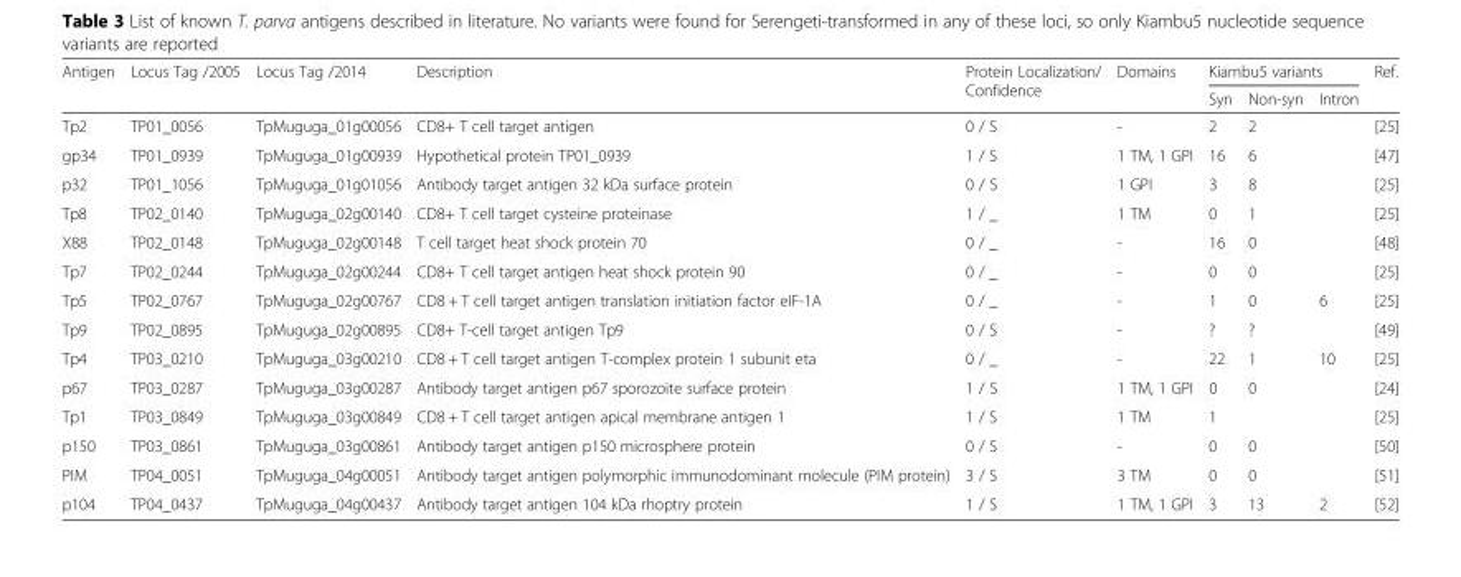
<table><thead><tr><td rowspan="2">Antigen</td><td rowspan="2">Locus Tag /2005</td><td rowspan="2">Locus Tag /2014</td><td rowspan="2">Description</td><td rowspan="2">Protein Localization/ Confidence</td><td rowspan="2">Domains</td><td colspan="3">Kiambu5 variants</td><td rowspan="2">Ref.</td></tr><tr><td>Syn</td><td>Non-syn</td><td>Intron</td></tr></thead><tbody><tr><td>Tp2</td><td>TP01_0056</td><td>TpMuguga_01g00056</td><td>CD8+ T cell target antigen</td><td>0 / S</td><td>-</td><td>2</td><td>2</td><td></td><td>[25]</td></tr><tr><td>gp34</td><td>TP01_0939</td><td>TpMuguga_01g00939</td><td>Hypothetical protein TP01_0939</td><td>1 / S</td><td>1 TM, 1 GPI</td><td>16</td><td>6</td><td></td><td>[47]</td></tr><tr><td>p32</td><td>TP01_1056</td><td>TpMuguga_01g01056</td><td>Antibody target antigen 32 kDa surface protein</td><td>0 / S</td><td>1 GPI</td><td>3</td><td>8</td><td></td><td>[25]</td></tr><tr><td>Tp8</td><td>TP02_0140</td><td>TpMuguga_02g00140</td><td>CD8+ T cell target cysteine proteinase</td><td>1 / _</td><td>1 TM</td><td>0</td><td>1</td><td></td><td>[25]</td></tr><tr><td>X88</td><td>TP02_0148</td><td>TpMuguga_02g00148</td><td>T cell target heat shock protein 70</td><td>0 / _</td><td>-</td><td>16</td><td>0</td><td></td><td>[48]</td></tr><tr><td>Tp7</td><td>TP02_0244</td><td>TpMuguga_02g00244</td><td>CD8+ T cell target antigen heat shock protein 90</td><td>0 / _</td><td>-</td><td>0</td><td>0</td><td></td><td>[25]</td></tr><tr><td>Tp5</td><td>TP02_0767</td><td>TpMuguga_02g00767</td><td>CD8 + T cell target antigen translation initiation factor eIF-1A</td><td>0 / _</td><td>-</td><td>1</td><td>0</td><td>6</td><td>[25]</td></tr><tr><td>Tp9</td><td>TP02_0895</td><td>TpMuguga_02g00895</td><td>CD8+ T-cell target antigen Tp9</td><td>0 / S</td><td>-</td><td>?</td><td>?</td><td></td><td>[49]</td></tr><tr><td>Tp4</td><td>TP03_0210</td><td>TpMuguga_03g00210</td><td>CD8 + T cell target antigen T-complex protein 1 subunit eta</td><td>0 / _</td><td>-</td><td>22</td><td>1</td><td>10</td><td>[25]</td></tr><tr><td>p67</td><td>TP03_0287</td><td>TpMuguga_03g00287</td><td>Antibody target antigen p67 sporozoite surface protein</td><td>1 / S</td><td>1 TM, 1 GPI</td><td>0</td><td>0</td><td></td><td>[24]</td></tr><tr><td>Tp1</td><td>TP03_0849</td><td>TpMuguga_03g00849</td><td>CD8 + T cell target antigen apical membrane antigen 1</td><td>1 / S</td><td>1 TM</td><td>1</td><td></td><td></td><td>[25]</td></tr><tr><td>p150</td><td>TP03_0861</td><td>TpMuguga_03g00861</td><td>Antibody target antigen p150 microsphere protein</td><td>0 / S</td><td>-</td><td>0</td><td>0</td><td></td><td>[50]</td></tr><tr><td>PIM</td><td>TP04_0051</td><td>TpMuguga_04g00051</td><td>Antibody target antigen polymorphic immunodominant molecule (PIM protein)</td><td>3 / S</td><td>3 TM</td><td>0</td><td>0</td><td></td><td>[51]</td></tr><tr><td>p104</td><td>TP04_0437</td><td>TpMuguga_04g00437</td><td>Antibody target antigen 104 kDa rhoptry protein</td><td>1 / S</td><td>1 TM, 1 GPI</td><td>3</td><td>13</td><td>2</td><td>[52]</td></tr></tbody></table>